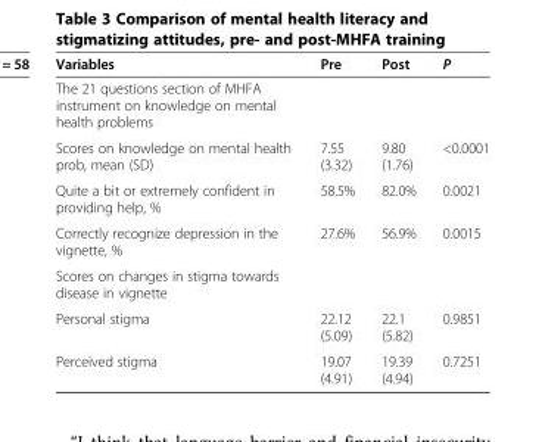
<table><thead><tr><td>Variables</td><td>Pre</td><td>Post</td><td>P</td></tr></thead><tbody><tr><td colspan="4">The 21 questions section of MHFA instrument on knowledge on mental health problems</td></tr><tr><td>Scores on knowledge on mental health prob, mean (SD)</td><td>7.55 (3.32)</td><td>9.80 (1.76)</td><td>&lt;0.0001</td></tr><tr><td>Quite a bit or extremely confident in providing help, %</td><td>58.5%</td><td>82.0%</td><td>0.0021</td></tr><tr><td>Correctly recognize depression in the vignette, %</td><td>27.6%</td><td>56.9%</td><td>0.0015</td></tr><tr><td colspan="4">Scores on changes in stigma towards disease in vignette</td></tr><tr><td>Personal stigma</td><td>22.12 (5.09)</td><td>22.1 (5.82)</td><td>0.9851</td></tr><tr><td>Perceived stigma</td><td>19.07 (4.91)</td><td>19.39 (4.94)</td><td>0.7251</td></tr></tbody></table>